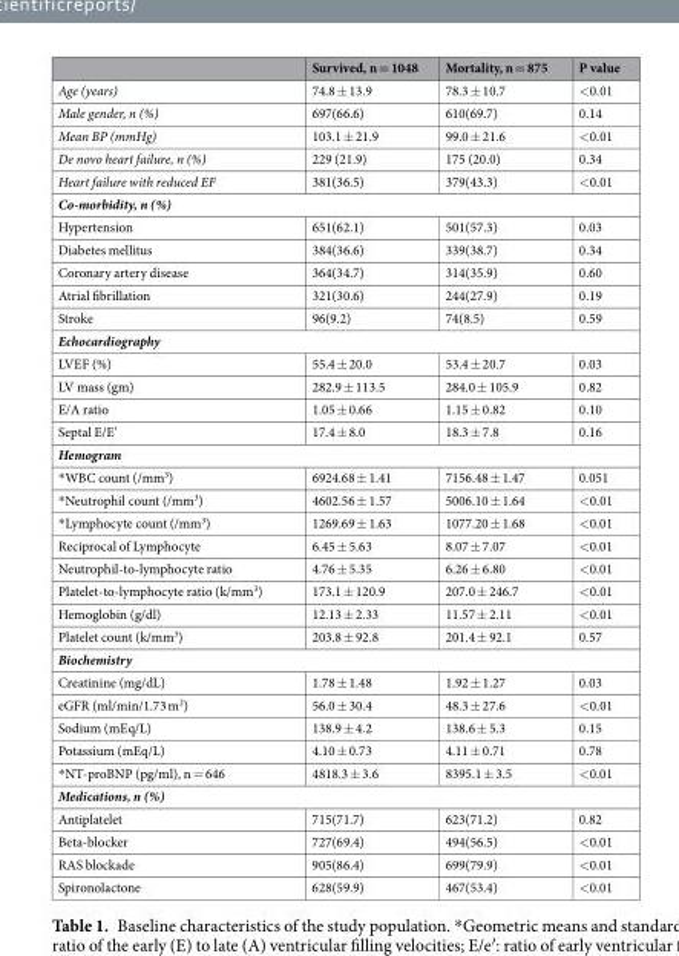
<table><thead><tr><td></td><td>Survived, n = 1048</td><td>Mortality, n = 875</td><td>P value</td></tr></thead><tbody><tr><td>Age (years)</td><td>74.8 ± 13.9</td><td>78.3 ± 10.7</td><td>&lt;0.01</td></tr><tr><td>Male gender, n (%)</td><td>697(66.6)</td><td>610(69.7)</td><td>0.14</td></tr><tr><td>Mean BP (mmHg)</td><td>103.1 ± 21.9</td><td>99.0 ± 21.6</td><td>&lt;0.01</td></tr><tr><td>De novo heart failure, n (%)</td><td>229 (21.9)</td><td>175 (20.0)</td><td>0.34</td></tr><tr><td>Heart failure with reduced EF</td><td>381(36.5)</td><td>379(43.3)</td><td>&lt;0.01</td></tr><tr><td colspan="4">Co-morbidity, n (%)</td></tr><tr><td>Hypertension</td><td>651(62.1)</td><td>501(57.3)</td><td>0.03</td></tr><tr><td>Diabetes mellitus</td><td>384(36.6)</td><td>339(38.7)</td><td>0.34</td></tr><tr><td>Coronary artery disease</td><td>364(34.7)</td><td>314(35.9)</td><td>0.60</td></tr><tr><td>Atrial fibrillation</td><td>321(30.6)</td><td>244(27.9)</td><td>0.19</td></tr><tr><td>Stroke</td><td>96(9.2)</td><td>74(8.5)</td><td>0.59</td></tr><tr><td colspan="4">Echocardiography</td></tr><tr><td>LVEF (%)</td><td>55.4 ± 20.0</td><td>53.4 ± 20.7</td><td>0.03</td></tr><tr><td>LV mass (gm)</td><td>282.9 ± 113.5</td><td>284.0 ± 105.9</td><td>0.82</td></tr><tr><td>E/A ratio</td><td>1.05 ± 0.66</td><td>1.15 ± 0.82</td><td>0.10</td></tr><tr><td>Septal E/E’</td><td>17.4 ± 8.0</td><td>18.3 ± 7.8</td><td>0.16</td></tr><tr><td colspan="4">Hemogram</td></tr><tr><td>*WBC count (/mm<sup>3</sup>)</td><td>6924.68 ± 1.41</td><td>7156.48 ± 1.47</td><td>0.051</td></tr><tr><td>*Neutrophil count (/mm<sup>3</sup>)</td><td>4602.56 ± 1.57</td><td>5006.10 ± 1.64</td><td>&lt;0.01</td></tr><tr><td>*Lymphocyte count (/mm<sup>3</sup>)</td><td>1269.69 ± 1.63</td><td>1077.20 ± 1.68</td><td>&lt;0.01</td></tr><tr><td>Reciprocal of Lymphocyte</td><td>6.45 ± 5.63</td><td>8.07 ± 7.07</td><td>&lt;0.01</td></tr><tr><td>Neutrophil-to-lymphocyte ratio</td><td>4.76 ± 5.35</td><td>6.26 ± 6.80</td><td>&lt;0.01</td></tr><tr><td>Platelet-to-lymphocyte ratio (k/mm<sup>3</sup>)</td><td>173.1 ± 120.9</td><td>207.0 ± 246.7</td><td>&lt;0.01</td></tr><tr><td>Hemoglobin (g/dl)</td><td>12.13 ± 2.33</td><td>11.57 ± 2.11</td><td>&lt;0.01</td></tr><tr><td>Platelet count (k/mm<sup>3</sup>)</td><td>203.8 ± 92.8</td><td>201.4 ± 92.1</td><td>0.57</td></tr><tr><td colspan="4">Biochemistry</td></tr><tr><td>Creatinine (mg/dL)</td><td>1.78 ± 1.48</td><td>1.92 ± 1.27</td><td>0.03</td></tr><tr><td>eGFR (ml/min/1.73 m<sup>2</sup>)</td><td>56.0 ± 30.4</td><td>48.3 ± 27.6</td><td>&lt;0.01</td></tr><tr><td>Sodium (mEq/L)</td><td>138.9 ± 4.2</td><td>138.6 ± 5.3</td><td>0.15</td></tr><tr><td>Potassium (mEq/L)</td><td>4.10 ± 0.73</td><td>4.11 ± 0.71</td><td>0.78</td></tr><tr><td>*NT-proBNP (pg/ml), n = 646</td><td>4818.3 ± 3.6</td><td>8395.1 ± 3.5</td><td>&lt;0.01</td></tr><tr><td colspan="4">Medications, n (%)</td></tr><tr><td>Antiplatelet</td><td>715(71.7)</td><td>623(71.2)</td><td>0.82</td></tr><tr><td>Beta-blocker</td><td>727(69.4)</td><td>494(56.5)</td><td>&lt;0.01</td></tr><tr><td>RAS blockade</td><td>905(86.4)</td><td>699(79.9)</td><td>&lt;0.01</td></tr><tr><td>Spironolactone</td><td>628(59.9)</td><td>467(53.4)</td><td>&lt;0.01</td></tr></tbody></table>